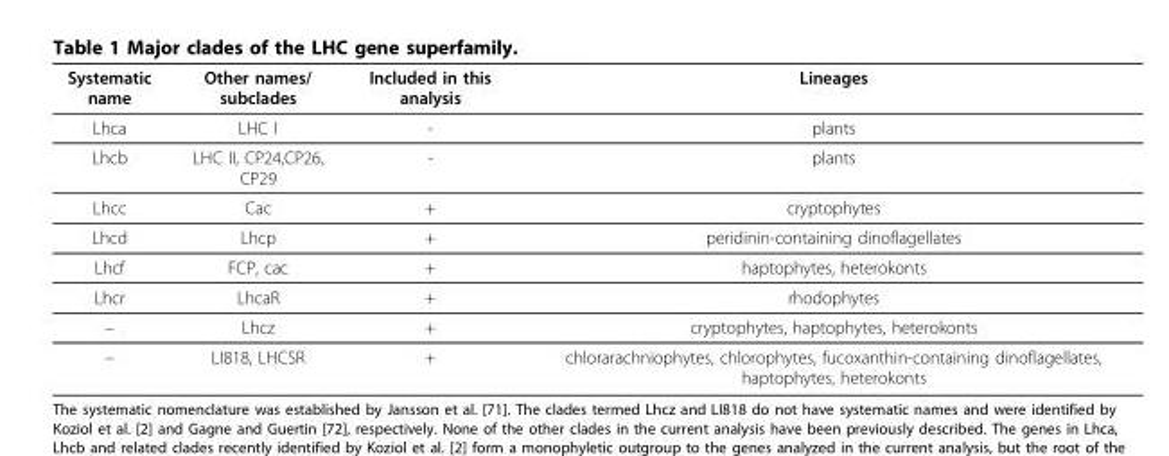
<table><thead><tr><td>Systematic name</td><td>Other names/ subclades</td><td>Included in this analysis</td><td>Lineages</td></tr></thead><tbody><tr><td>Lhca</td><td>LHC I</td><td>-</td><td>plants</td></tr><tr><td>Lhcb</td><td>LHC II, CP24,CP26, CP29</td><td>-</td><td>plants</td></tr><tr><td>Lhcc</td><td>Cac</td><td>+</td><td>cryptophytes</td></tr><tr><td>Lhcd</td><td>Lhcp</td><td>+</td><td>peridinin-containing dinoflagellates</td></tr><tr><td>Lhcf</td><td>FCP, cac</td><td>+</td><td>haptophytes, heterokonts</td></tr><tr><td>Lhcr</td><td>LhcaR</td><td>+</td><td>rhodophytes</td></tr><tr><td>–</td><td>Lhcz</td><td>+</td><td>cryptophytes, haptophytes, heterokonts</td></tr><tr><td>–</td><td>LI818, LHCSR</td><td>+</td><td>chlorarachniophytes, chlorophytes, fucoxanthin-containing dinoflagellates, haptophytes, heterokonts</td></tr></tbody></table>